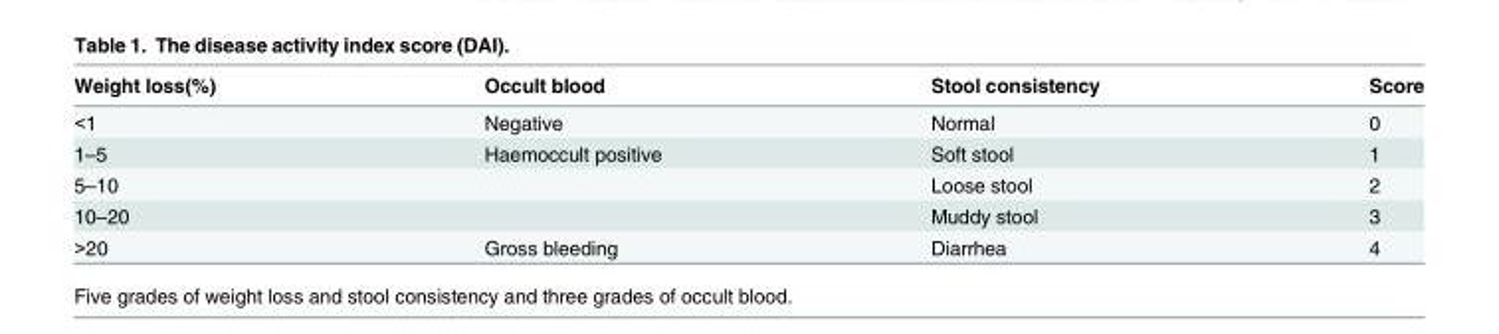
<table><thead><tr><td>Weight loss(%)</td><td>Occult blood</td><td>Stool consistency</td><td>Score</td></tr></thead><tbody><tr><td>&lt;1</td><td>Negative</td><td>Normal</td><td>0</td></tr><tr><td>1–5</td><td>Haemoccult positive</td><td>Soft stool</td><td>1</td></tr><tr><td>5–10</td><td></td><td>Loose stool</td><td>2</td></tr><tr><td>10–20</td><td></td><td>Muddy stool</td><td>3</td></tr><tr><td>&gt;20</td><td>Gross bleeding</td><td>Diarrhea</td><td>4</td></tr></tbody></table>